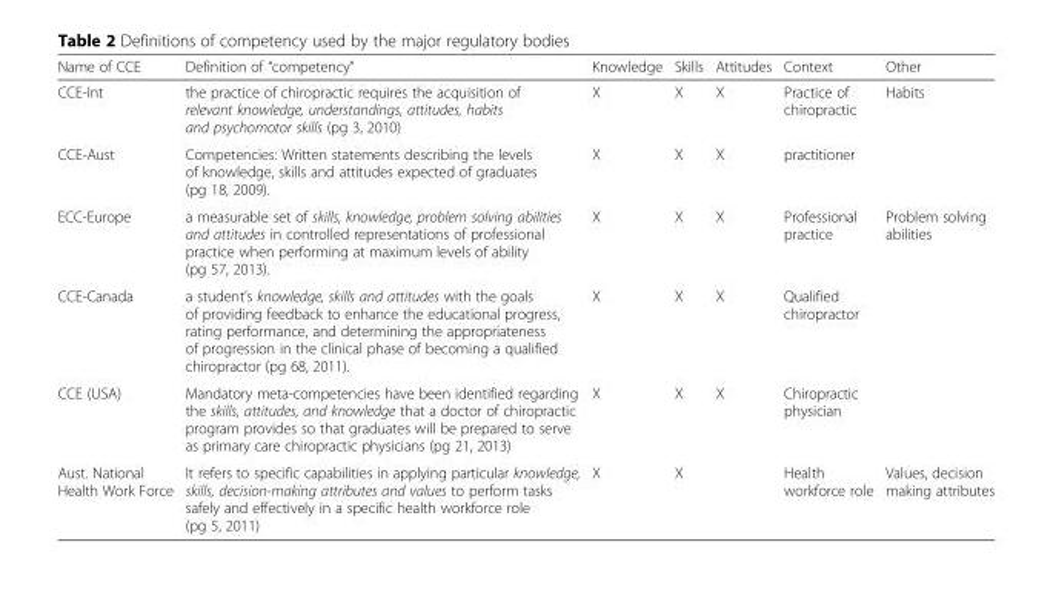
<table><thead><tr><td>Name of CCE</td><td>Definition of “competency”</td><td>Knowledge</td><td>Skills</td><td>Attitudes</td><td>Context</td><td>Other</td></tr></thead><tbody><tr><td>CCE-Int</td><td>the practice of chiropractic requires the acquisition of relevant knowledge, understandings, attitudes, habits and psychomotor skills (pg 3, 2010)</td><td>X</td><td>X</td><td>X</td><td>Practice of chiropractic</td><td>Habits</td></tr><tr><td>CCE-Aust</td><td>Competencies: Written statements describing the levels of knowledge, skills and attitudes expected of graduates (pg 18, 2009).</td><td>X</td><td>X</td><td>X</td><td>practitioner</td><td></td></tr><tr><td>ECC-Europe</td><td>a measurable set of skills, knowledge, problem solving abilities and attitudes in controlled representations of professional practice when performing at maximum levels of ability (pg 57, 2013).</td><td>X</td><td>X</td><td>X</td><td>Professional practice</td><td>Problem solving abilities</td></tr><tr><td>CCE-Canada</td><td>a student’s knowledge, skills and attitudes with the goals of providing feedback to enhance the educational progress, rating performance, and determining the appropriateness of progression in the clinical phase of becoming a qualified chiropractor (pg 68, 2011).</td><td>X</td><td>X</td><td>X</td><td>Qualified chiropractor</td><td></td></tr><tr><td>CCE (USA)</td><td>Mandatory meta-competencies have been identified regarding the skills, attitudes, and knowledge that a doctor of chiropractic program provides so that graduates will be prepared to serve as primary care chiropractic physicians (pg 21, 2013)</td><td>X</td><td>X</td><td>X</td><td>Chiropractic physician</td><td></td></tr><tr><td>Aust. National Health Work Force</td><td>It refers to specific capabilities in applying particular knowledge, skills, decision-making attributes and values to perform tasks safely and effectively in a specific health workforce role (pg 5, 2011)</td><td>X</td><td>X</td><td></td><td>Health workforce role</td><td>Values, decision making attributes</td></tr></tbody></table>